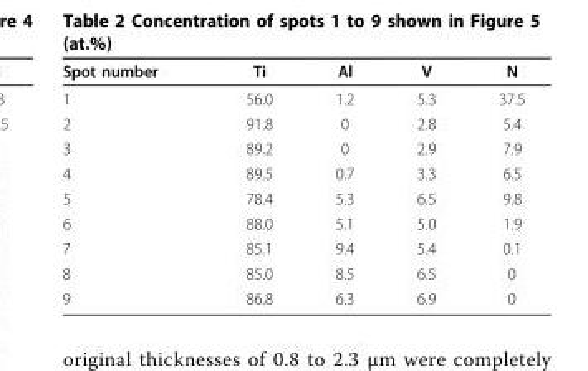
<table><thead><tr><td>Spot number</td><td>Ti</td><td>Al</td><td>V</td><td>N</td></tr></thead><tbody><tr><td>1</td><td>56.0</td><td>1.2</td><td>5.3</td><td>37.5</td></tr><tr><td>2</td><td>91.8</td><td>0</td><td>2.8</td><td>5.4</td></tr><tr><td>3</td><td>89.2</td><td>0</td><td>2.9</td><td>7.9</td></tr><tr><td>4</td><td>89.5</td><td>0.7</td><td>3.3</td><td>6.5</td></tr><tr><td>5</td><td>78.4</td><td>5.3</td><td>6.5</td><td>9.8</td></tr><tr><td>6</td><td>88.0</td><td>5.1</td><td>5.0</td><td>1.9</td></tr><tr><td>7</td><td>85.1</td><td>9.4</td><td>5.4</td><td>0.1</td></tr><tr><td>8</td><td>85.0</td><td>8.5</td><td>6.5</td><td>0</td></tr><tr><td>9</td><td>86.8</td><td>6.3</td><td>6.9</td><td>0</td></tr></tbody></table>